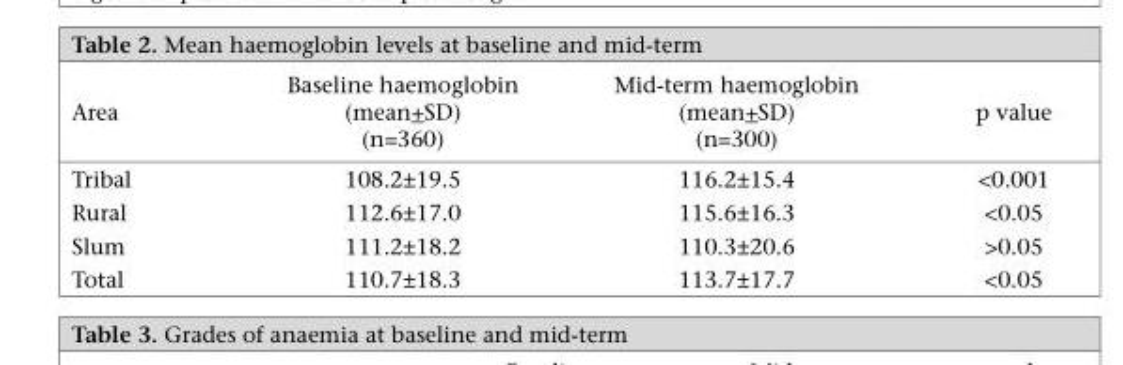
<table><thead><tr><td>Area</td><td>Baseline haemoglobin (mean+SD) (n=360)</td><td>Mid-term haemoglobin (mean+SD) (n=300)</td><td>p value</td></tr></thead><tbody><tr><td>Tribal</td><td>108.2±19.5</td><td>116.2±15.4</td><td>&lt;0.001</td></tr><tr><td>Rural</td><td>112.6±17.0</td><td>115.6±16.3</td><td>&lt;0.05</td></tr><tr><td>Slum</td><td>111.2±18.2</td><td>110.3±20.6</td><td>&gt;0.05</td></tr><tr><td>Total</td><td>110.7±18.3</td><td>113.7±17.7</td><td>&lt;0.05</td></tr></tbody></table>